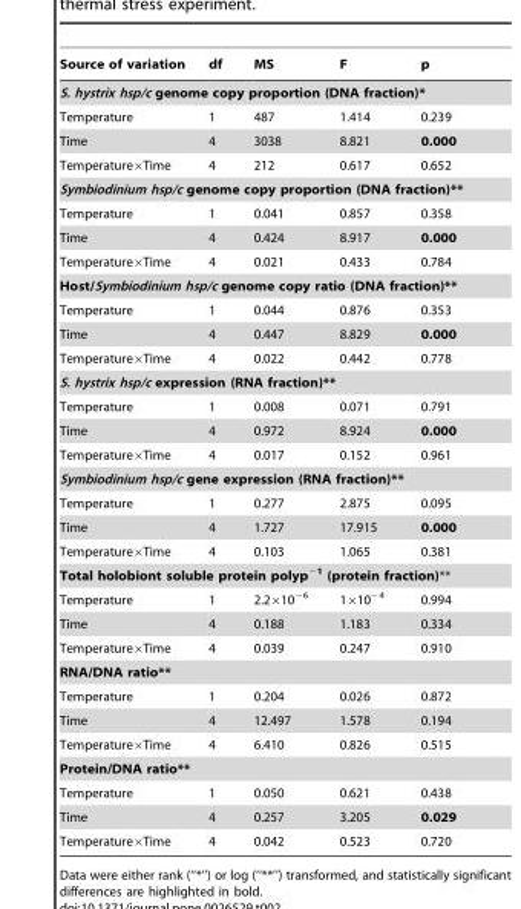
<table><thead><tr><td>Source of variation</td><td>df</td><td>MS</td><td>F</td><td>p</td></tr></thead><tbody><tr><td colspan="5">S. hystrix hsp/c genome copy proportion (DNA fraction)*</td></tr><tr><td>Temperature</td><td>1</td><td>487</td><td>1.414</td><td>0.239</td></tr><tr><td>Time</td><td>4</td><td>3038</td><td>8.821</td><td>0.000</td></tr><tr><td>Temperature×Time</td><td>4</td><td>212</td><td>0.617</td><td>0.652</td></tr><tr><td colspan="5">Symbiodinium hsp/c genome copy proportion (DNA fraction)**</td></tr><tr><td>Temperature</td><td>1</td><td>0.041</td><td>0.857</td><td>0.358</td></tr><tr><td>Time</td><td>4</td><td>0.424</td><td>8.917</td><td>0.000</td></tr><tr><td>Temperature×Time</td><td>4</td><td>0.021</td><td>0.433</td><td>0.784</td></tr><tr><td colspan="5">Host/Symbiodinium hsp/c genome copy ratio (DNA fraction)**</td></tr><tr><td>Temperature</td><td>1</td><td>0.044</td><td>0.876</td><td>0.353</td></tr><tr><td>Time</td><td>4</td><td>0.447</td><td>8.829</td><td>0.000</td></tr><tr><td>Temperature×Time</td><td>4</td><td>0.022</td><td>0.442</td><td>0.778</td></tr><tr><td colspan="5">S. hystrix hsp/c expression (RNA fraction)**</td></tr><tr><td>Temperature</td><td>1</td><td>0.008</td><td>0.071</td><td>0.791</td></tr><tr><td>Time</td><td>4</td><td>0.972</td><td>8.924</td><td>0.000</td></tr><tr><td>Temperature×Time</td><td>4</td><td>0.017</td><td>0.152</td><td>0.961</td></tr><tr><td colspan="5">Symbiodinium hsp/c gene expression (RNA fraction)**</td></tr><tr><td>Temperature</td><td>1</td><td>0.277</td><td>2.875</td><td>0.095</td></tr><tr><td>Time</td><td>4</td><td>1.727</td><td>17.915</td><td>0.000</td></tr><tr><td>Temperature×Time</td><td>4</td><td>0.103</td><td>1.065</td><td>0.381</td></tr><tr><td colspan="5">Total holobiont soluble protein polyp<sup>−1</sup> (protein fraction)**</td></tr><tr><td>Temperature</td><td>1</td><td>2.2×10<sup>−6</sup></td><td>1×10<sup>−4</sup></td><td>0.994</td></tr><tr><td>Time</td><td>4</td><td>0.188</td><td>1.183</td><td>0.334</td></tr><tr><td>Temperature×Time</td><td>4</td><td>0.039</td><td>0.247</td><td>0.910</td></tr><tr><td colspan="5">RNA/DNA ratio**</td></tr><tr><td>Temperature</td><td>1</td><td>0.204</td><td>0.026</td><td>0.872</td></tr><tr><td>Time</td><td>4</td><td>12.497</td><td>1.578</td><td>0.194</td></tr><tr><td>Temperature×Time</td><td>4</td><td>6.410</td><td>0.826</td><td>0.515</td></tr><tr><td colspan="5">Protein/DNA ratio**</td></tr><tr><td>Temperature</td><td>1</td><td>0.050</td><td>0.621</td><td>0.438</td></tr><tr><td>Time</td><td>4</td><td>0.257</td><td>3.205</td><td>0.029</td></tr><tr><td>Temperature×Time</td><td>4</td><td>0.042</td><td>0.523</td><td>0.720</td></tr></tbody></table>